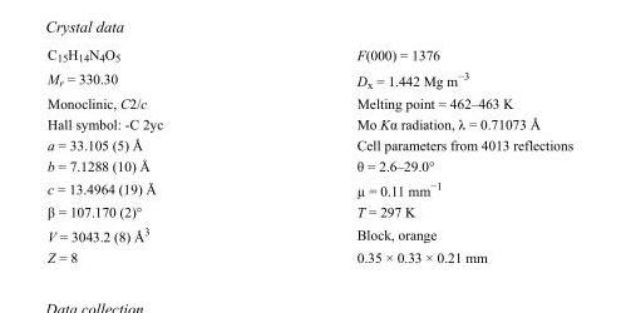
<table><tbody><tr><td>C<sub>15</sub>H<sub>14</sub>N<sub>4</sub>O<sub>5</sub></td><td>F(000) = 1376</td></tr><tr><td>M<sub>r</sub> = 330.30</td><td>D<sub>x</sub> = 1.442 Mg m<sup>−3</sup></td></tr><tr><td>Monoclinic, C2/c</td><td>Melting point = 462–463 K</td></tr><tr><td>Hall symbol: -C 2yc</td><td>Mo Kα radiation, λ = 0.71073 Å</td></tr><tr><td>a = 33.105 (5) Å</td><td>Cell parameters from 4013 reflections</td></tr><tr><td>b = 7.1288 (10) Å</td><td>θ = 2.6–29.0°</td></tr><tr><td>c = 13.4964 (19) Å</td><td>µ = 0.11 mm<sup>−1</sup></td></tr><tr><td>β = 107.170 (2)°</td><td>T = 297 K</td></tr><tr><td>V = 3043.2 (8) Å<sup>3</sup></td><td>Block, orange</td></tr><tr><td>Z = 8</td><td>0.35 × 0.33 × 0.21 mm</td></tr></tbody></table>